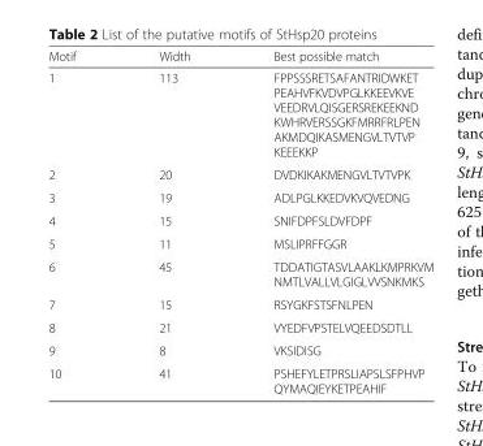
<table><thead><tr><td>Motif</td><td>Width</td><td>Best possible match</td></tr></thead><tbody><tr><td>1</td><td>113</td><td>FPPSSSRETSAFANTRIDWKET PEAHVFKVDVPGLKKEEVKVE VEEDRVLQISGERSREKEEKND KWHRVERSSGKFMRRFRLPEN AKMDQIKASMENGVLTVTVP KEEEKKP</td></tr><tr><td>2</td><td>20</td><td>DVDKIKAKMENGVLTVTVPK</td></tr><tr><td>3</td><td>19</td><td>ADLPGLKKEDVKVQVEDNG</td></tr><tr><td>4</td><td>15</td><td>SNIFDPFSLDVFDPF</td></tr><tr><td>5</td><td>11</td><td>MSLIPRFFGGR</td></tr><tr><td>6</td><td>45</td><td>TDDATIGTASVLAAKLKMPRKVM NMTLVALLVLGIGLVVSNKMKS</td></tr><tr><td>7</td><td>15</td><td>RSYGKFSTSFNLPEN</td></tr><tr><td>8</td><td>21</td><td>VYEDFVPSTELVQEEDSDTLL</td></tr><tr><td>9</td><td>8</td><td>VKSIDISG</td></tr><tr><td>10</td><td>41</td><td>PSHEFYLETPRSLIAPSLSFPHVP QYMAQIEYKETPEAHIF</td></tr></tbody></table>